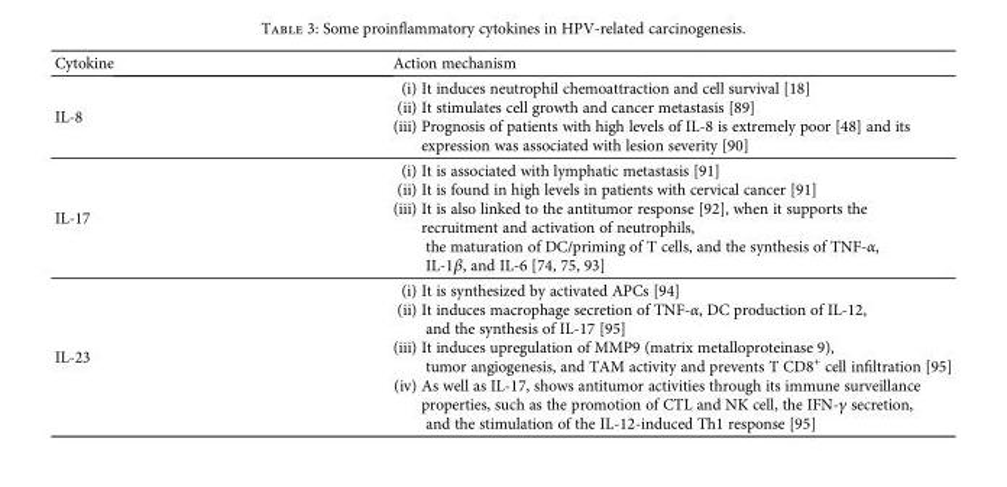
<table><thead><tr><td>Cytokine</td><td>Action mechanism</td></tr></thead><tbody><tr><td>IL-8</td><td>(i) It induces neutrophil chemoattraction and cell survival [18] (ii) It stimulates cell growth and cancer metastasis [89] (iii) Prognosis of patients with high levels of IL-8 is extremely poor [48] and its expression was associated with lesion severity [90]</td></tr><tr><td>IL-17</td><td>(i) It is associated with lymphatic metastasis [91] (ii) It is found in high levels in patients with cervical cancer [91] (iii) It is also linked to the antitumor response [92], when it supports the recruitment and activation of neutrophils, the maturation of DC/priming of T cells, and the synthesis of TNF-α, IL-1β, and IL-6 [74, 75, 93]</td></tr><tr><td>IL-23</td><td>(i) It is synthesized by activated APCs [94] (ii) It induces macrophage secretion of TNF-α, DC production of IL-12, and the synthesis of IL-17 [95] (iii) It induces upregulation of MMP9 (matrix metalloproteinase 9), tumor angiogenesis, and TAM activity and prevents T CD8<sup>+</sup> cell infiltration [95] (iv) As well as IL-17, shows antitumor activities through its immune surveillance properties, such as the promotion of CTL and NK cell, the IFN-γ secretion, and the stimulation of the IL-12-induced Th1 response [95]</td></tr></tbody></table>